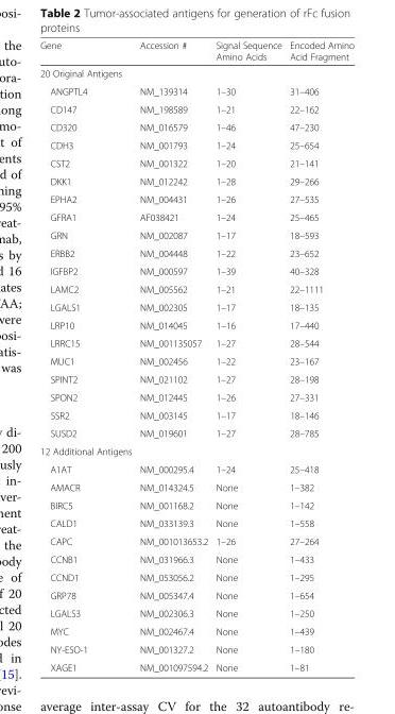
<table><thead><tr><td>Gene</td><td>Accession #</td><td>Signal Sequence Amino Acids</td><td>Encoded Amino Acid Fragment</td></tr></thead><tbody><tr><td colspan="4">20 Original Antigens</td></tr><tr><td>ANGPTL4</td><td>NM_139314</td><td>1–30</td><td>31–406</td></tr><tr><td>CD147</td><td>NM_198589</td><td>1–21</td><td>22–162</td></tr><tr><td>CD320</td><td>NM_016579</td><td>1–46</td><td>47–230</td></tr><tr><td>CDH3</td><td>NM_001793</td><td>1–24</td><td>25–654</td></tr><tr><td>CST2</td><td>NM_001322</td><td>1–20</td><td>21–141</td></tr><tr><td>DKK1</td><td>NM_012242</td><td>1–28</td><td>29–266</td></tr><tr><td>EPHA2</td><td>NM_004431</td><td>1–26</td><td>27–535</td></tr><tr><td>GFRA1</td><td>AF038421</td><td>1–24</td><td>25–465</td></tr><tr><td>GRN</td><td>NM_002087</td><td>1–17</td><td>18–593</td></tr><tr><td>ERBB2</td><td>NM_004448</td><td>1–22</td><td>23–652</td></tr><tr><td>IGFBP2</td><td>NM_000597</td><td>1–39</td><td>40–328</td></tr><tr><td>LAMC2</td><td>NM_005562</td><td>1–21</td><td>22–1111</td></tr><tr><td>LGALS1</td><td>NM_002305</td><td>1–17</td><td>18–135</td></tr><tr><td>LRP10</td><td>NM_014045</td><td>1–16</td><td>17–440</td></tr><tr><td>LRRC15</td><td>NM_001135057</td><td>1–27</td><td>28–544</td></tr><tr><td>MUC1</td><td>NM_002456</td><td>1–22</td><td>23–167</td></tr><tr><td>SPINT2</td><td>NM_021102</td><td>1–27</td><td>28–198</td></tr><tr><td>SPON2</td><td>NM_012445</td><td>1–26</td><td>27–331</td></tr><tr><td>SSR2</td><td>NM_003145</td><td>1–17</td><td>18–146</td></tr><tr><td>SUSD2</td><td>NM_019601</td><td>1–27</td><td>28–785</td></tr><tr><td colspan="4">12 Additional Antigens</td></tr><tr><td>A1AT</td><td>NM_000295.4</td><td>1–24</td><td>25–418</td></tr><tr><td>AMACR</td><td>NM_014324.5</td><td>None</td><td>1–382</td></tr><tr><td>BIRC5</td><td>NM_001168.2</td><td>None</td><td>1–142</td></tr><tr><td>CALD1</td><td>NM_033139.3</td><td>None</td><td>1–558</td></tr><tr><td>CAPC</td><td>NM_001013653.2</td><td>1–26</td><td>27–264</td></tr><tr><td>CCNB1</td><td>NM_031966.3</td><td>None</td><td>1–433</td></tr><tr><td>CCND1</td><td>NM_053056.2</td><td>None</td><td>1–295</td></tr><tr><td>GRP78</td><td>NM_005347.4</td><td>None</td><td>1–654</td></tr><tr><td>LGALS3</td><td>NM_002306.3</td><td>None</td><td>1–250</td></tr><tr><td>MYC</td><td>NM_002467.4</td><td>None</td><td>1–439</td></tr><tr><td>NY-ESO-1</td><td>NM_001327.2</td><td>None</td><td>1–180</td></tr><tr><td>XAGE1</td><td>NM_001097594.2</td><td>None</td><td>1–81</td></tr></tbody></table>